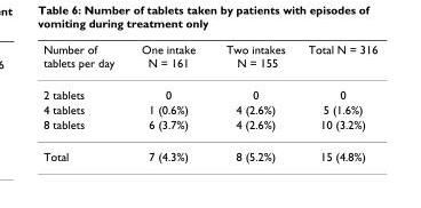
<table><thead><tr><td>Number of tablets per day</td><td>One intake N = 161</td><td>Two intakes N = 155</td><td>Total N = 316</td></tr></thead><tbody><tr><td>2 tablets</td><td>0</td><td>0</td><td>0</td></tr><tr><td>4 tablets</td><td>1 (0.6%)</td><td>4 (2.6%)</td><td>5 (1.6%)</td></tr><tr><td>8 tablets</td><td>6 (3.7%)</td><td>4 (2.6%)</td><td>10 (3.2%)</td></tr><tr><td>Total</td><td>7 (4.3%)</td><td>8 (5.2%)</td><td>15 (4.8%)</td></tr></tbody></table>